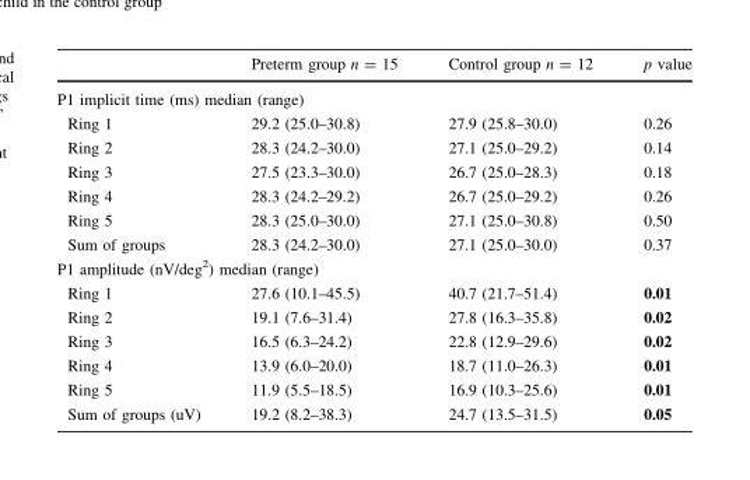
<table><thead><tr><td></td><td>Preterm group n = 15</td><td>Control group n = 12</td><td>p value</td></tr></thead><tbody><tr><td colspan="4">P1 implicit time (ms) median (range)</td></tr><tr><td>Ring 1</td><td>29.2 (25.0–30.8)</td><td>27.9 (25.8–30.0)</td><td>0.26</td></tr><tr><td>Ring 2</td><td>28.3 (24.2–30.0)</td><td>27.1 (25.0–29.2)</td><td>0.14</td></tr><tr><td>Ring 3</td><td>27.5 (23.3–30.0)</td><td>26.7 (25.0–28.3)</td><td>0.18</td></tr><tr><td>Ring 4</td><td>28.3 (24.2–29.2)</td><td>26.7 (25.0–29.2)</td><td>0.26</td></tr><tr><td>Ring 5</td><td>28.3 (25.0–30.0)</td><td>27.1 (25.0–30.8)</td><td>0.50</td></tr><tr><td>Sum of groups</td><td>28.3 (24.2–30.0)</td><td>27.1 (25.0–30.0)</td><td>0.37</td></tr><tr><td colspan="4">P1 amplitude (nV/deg<sup>2</sup>) median (range)</td></tr><tr><td>Ring 1</td><td>27.6 (10.1–45.5)</td><td>40.7 (21.7–51.4)</td><td>0.01</td></tr><tr><td>Ring 2</td><td>19.1 (7.6–31.4)</td><td>27.8 (16.3–35.8)</td><td>0.02</td></tr><tr><td>Ring 3</td><td>16.5 (6.3–24.2)</td><td>22.8 (12.9–29.6)</td><td>0.02</td></tr><tr><td>Ring 4</td><td>13.9 (6.0–20.0)</td><td>18.7 (11.0–26.3)</td><td>0.01</td></tr><tr><td>Ring 5</td><td>11.9 (5.5–18.5)</td><td>16.9 (10.3–25.6)</td><td>0.01</td></tr><tr><td>Sum of groups (uV)</td><td>19.2 (8.2–38.3)</td><td>24.7 (13.5–31.5)</td><td>0.05</td></tr></tbody></table>